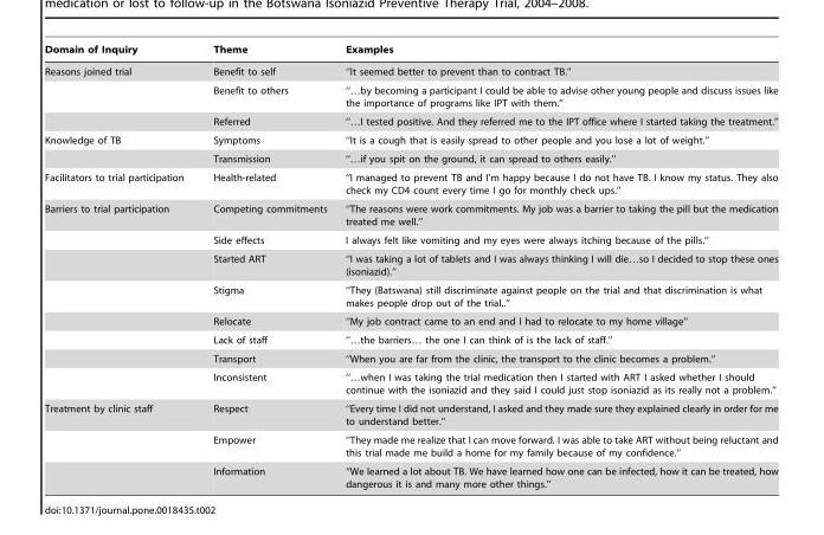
<table><thead><tr><td>Domain of Inquiry</td><td>Theme</td><td>Examples</td></tr></thead><tbody><tr><td rowspan="3">Reasons joined trial</td><td>Benefit to self</td><td>‘‘It seemed better to prevent than to contract TB.’’</td></tr><tr><td>Benefit to others</td><td>‘‘…by becoming a participant I could be able to advise other young people and discuss issues like the importance of programs like IPT with them.’’</td></tr><tr><td>Referred</td><td>‘‘…I tested positive. And they referred me to the IPT office where I started taking the treatment.’’</td></tr><tr><td rowspan="2">Knowledge of TB</td><td>Symptoms</td><td>‘‘It is a cough that is easily spread to other people and you lose a lot of weight.’’</td></tr><tr><td>Transmission</td><td>‘‘…if you spit on the ground, it can spread to others easily.’’</td></tr><tr><td>Facilitators to trial participation</td><td>Health-related</td><td>‘‘I managed to prevent TB and I’m happy because I do not have TB. I know my status. They also check my CD4 count every time I go for monthly check ups.’’</td></tr><tr><td rowspan="8">Barriers to trial participation</td><td>Competing commitments</td><td>‘‘The reasons were work commitments. My job was a barrier to taking the pill but the medication treated me well.’’</td></tr><tr><td>Side effects</td><td>I always felt like vomiting and my eyes were always itching because of the pills.’’</td></tr><tr><td>Started ART</td><td>‘‘I was taking a lot of tablets and I was always thinking I will die…so I decided to stop these ones (isoniazid).’’</td></tr><tr><td>Stigma</td><td>‘‘They (Batswana) still discriminate against people on the trial and that discrimination is what makes people drop out of the trial..’’</td></tr><tr><td>Relocate</td><td>‘‘My job contract came to an end and I had to relocate to my home village’’</td></tr><tr><td>Lack of staff</td><td>‘‘…the barriers… the one I can think of is the lack of staff.’’</td></tr><tr><td>Transport</td><td>‘‘When you are far from the clinic, the transport to the clinic becomes a problem.’’</td></tr><tr><td>Inconsistent</td><td>‘‘…when I was taking the trial medication then I started with ART I asked whether I should continue with the isoniazid and they said I could just stop isoniazid as its really not a problem.’’</td></tr><tr><td rowspan="3">Treatment by clinic staff</td><td>Respect</td><td>‘‘Every time I did not understand, I asked and they made sure they explained clearly in order for me to understand better.’’</td></tr><tr><td>Empower</td><td>‘‘They made me realize that I can move forward. I was able to take ART without being reluctant and this trial made me build a home for my family because of my confidence.’’</td></tr><tr><td>Information</td><td>‘‘We learned a lot about TB. We have learned how one can be infected, how it can be treated, how dangerous it is and many more other things.’’</td></tr></tbody></table>